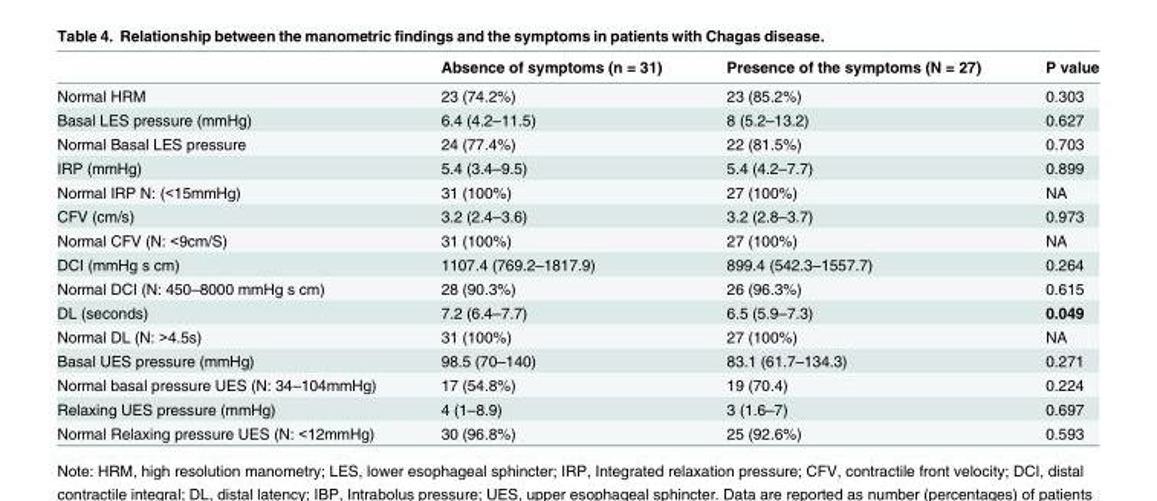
<table><thead><tr><td></td><td>Absence of symptoms (n = 31)</td><td>Presence of the symptoms (N = 27)</td><td>P value</td></tr></thead><tbody><tr><td>Normal HRM</td><td>23 (74.2%)</td><td>23 (85.2%)</td><td>0.303</td></tr><tr><td>Basal LES pressure (mmHg)</td><td>6.4 (4.2–11.5)</td><td>8 (5.2–13.2)</td><td>0.627</td></tr><tr><td>Normal Basal LES pressure</td><td>24 (77.4%)</td><td>22 (81.5%)</td><td>0.703</td></tr><tr><td>IRP (mmHg)</td><td>5.4 (3.4–9.5)</td><td>5.4 (4.2–7.7)</td><td>0.899</td></tr><tr><td>Normal IRP N: (&lt;15mmHg)</td><td>31 (100%)</td><td>27 (100%)</td><td>NA</td></tr><tr><td>CFV (cm/s)</td><td>3.2 (2.4–3.6)</td><td>3.2 (2.8–3.7)</td><td>0.973</td></tr><tr><td>Normal CFV (N: &lt;9cm/S)</td><td>31 (100%)</td><td>27 (100%)</td><td>NA</td></tr><tr><td>DCI (mmHg s cm)</td><td>1107.4 (769.2–1817.9)</td><td>899.4 (542.3–1557.7)</td><td>0.264</td></tr><tr><td>Normal DCI (N: 450–8000 mmHg s cm)</td><td>28 (90.3%)</td><td>26 (96.3%)</td><td>0.615</td></tr><tr><td>DL (seconds)</td><td>7.2 (6.4–7.7)</td><td>6.5 (5.9–7.3)</td><td>0.049</td></tr><tr><td>Normal DL (N: &gt;4.5s)</td><td>31 (100%)</td><td>27 (100%)</td><td>NA</td></tr><tr><td>Basal UES pressure (mmHg)</td><td>98.5 (70–140)</td><td>83.1 (61.7–134.3)</td><td>0.271</td></tr><tr><td>Normal basal pressure UES (N: 34–104mmHg)</td><td>17 (54.8%)</td><td>19 (70.4)</td><td>0.224</td></tr><tr><td>Relaxing UES pressure (mmHg)</td><td>4 (1–8.9)</td><td>3 (1.6–7)</td><td>0.697</td></tr><tr><td>Normal Relaxing pressure UES (N: &lt;12mmHg)</td><td>30 (96.8%)</td><td>25 (92.6%)</td><td>0.593</td></tr></tbody></table>